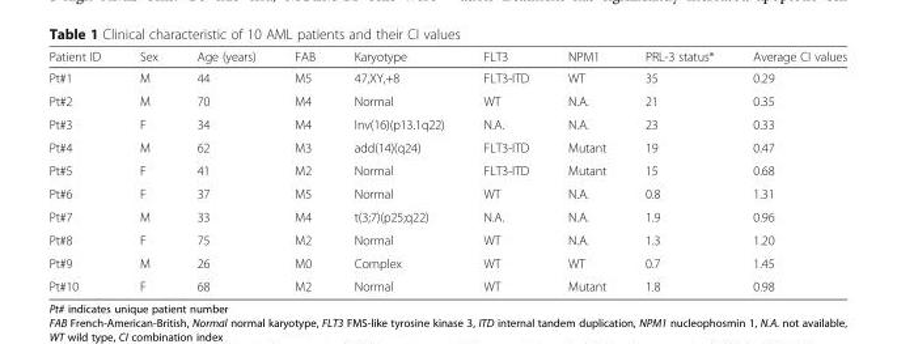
<table><thead><tr><td>Patient ID</td><td>Sex</td><td>Age (years)</td><td>FAB</td><td>Karyotype</td><td>FLT3</td><td>NPM1</td><td>PRL-3 status*</td><td>Average CI values</td></tr></thead><tbody><tr><td>Pt#1</td><td>M</td><td>44</td><td>M5</td><td>47,XY,+8</td><td>FLT3-ITD</td><td>WT</td><td>35</td><td>0.29</td></tr><tr><td>Pt#2</td><td>M</td><td>70</td><td>M4</td><td>Normal</td><td>WT</td><td>N.A.</td><td>21</td><td>0.35</td></tr><tr><td>Pt#3</td><td>F</td><td>34</td><td>M4</td><td>Inv(16)(p13.1q22)</td><td>N.A.</td><td>N.A.</td><td>23</td><td>0.33</td></tr><tr><td>Pt#4</td><td>M</td><td>62</td><td>M3</td><td>add(14)(q24)</td><td>FLT3-ITD</td><td>Mutant</td><td>19</td><td>0.47</td></tr><tr><td>Pt#5</td><td>F</td><td>41</td><td>M2</td><td>Normal</td><td>FLT3-ITD</td><td>Mutant</td><td>15</td><td>0.68</td></tr><tr><td>Pt#6</td><td>F</td><td>37</td><td>M5</td><td>Normal</td><td>WT</td><td>N.A.</td><td>0.8</td><td>1.31</td></tr><tr><td>Pt#7</td><td>M</td><td>33</td><td>M4</td><td>t(3;7)(p25;q22)</td><td>N.A.</td><td>N.A.</td><td>1.9</td><td>0.96</td></tr><tr><td>Pt#8</td><td>F</td><td>75</td><td>M2</td><td>Normal</td><td>WT</td><td>N.A.</td><td>1.3</td><td>1.20</td></tr><tr><td>Pt#9</td><td>M</td><td>26</td><td>M0</td><td>Complex</td><td>WT</td><td>WT</td><td>0.7</td><td>1.45</td></tr><tr><td>Pt#10</td><td>F</td><td>68</td><td>M2</td><td>Normal</td><td>WT</td><td>Mutant</td><td>1.8</td><td>0.98</td></tr></tbody></table>